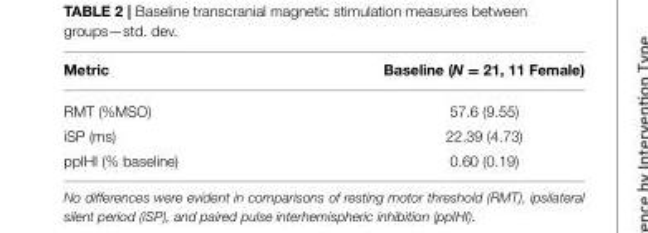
<table><thead><tr><td>Metric</td><td>Baseline (N = 21, 11 Female)</td></tr></thead><tbody><tr><td>RMT (%MSO)</td><td>57.6 (9.55)</td></tr><tr><td>iSP (ms)</td><td>22.39 (4.73)</td></tr><tr><td>ppIHI (% baseline)</td><td>0.60 (0.19)</td></tr></tbody></table>